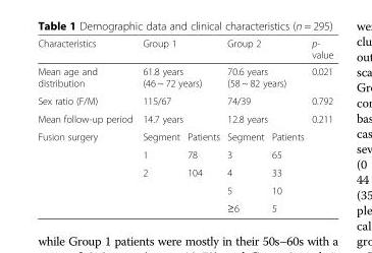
<table><thead><tr><td>Characteristics</td><td colspan="2">Group 1</td><td colspan="2">Group 2</td><td>p- value</td></tr></thead><tbody><tr><td>Mean age and distribution</td><td colspan="2">61.8 years (46 ~ 72 years)</td><td colspan="2">70.6 years (58 ~ 82 years)</td><td>0.021</td></tr><tr><td>Sex ratio (F/M)</td><td colspan="2">115/67</td><td colspan="2">74/39</td><td>0.792</td></tr><tr><td>Mean follow-up period</td><td colspan="2">14.7 years</td><td colspan="2">12.8 years</td><td>0.211</td></tr><tr><td rowspan="5">Fusion surgery</td><td>Segment</td><td>Patients</td><td>Segment</td><td>Patients</td><td></td></tr><tr><td>1</td><td>78</td><td>3</td><td>65</td><td></td></tr><tr><td>2</td><td>104</td><td>4</td><td>33</td><td></td></tr><tr><td></td><td></td><td>5</td><td>10</td><td></td></tr><tr><td></td><td></td><td>≥6</td><td>5</td><td></td></tr></tbody></table>